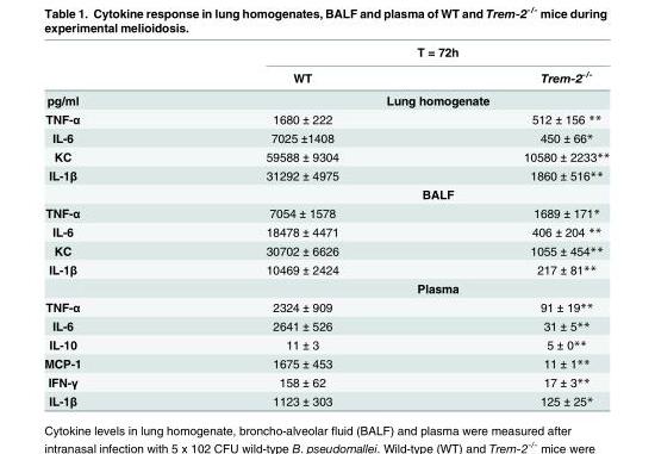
<table><thead><tr><td rowspan="2"></td><td colspan="2">T = 72h</td></tr><tr><td>WT</td><td>Trem-2<sup>-/-</sup></td></tr></thead><tbody><tr><td>pg/ml</td><td colspan="2">Lung homogenate</td></tr><tr><td>TNF-α</td><td>1680 ± 222</td><td>512 ± 156 **</td></tr><tr><td>IL-6</td><td>7025 ±1408</td><td>450 ± 66*</td></tr><tr><td>KC</td><td>59588 ± 9304</td><td>10580 ± 2233**</td></tr><tr><td rowspan="2">IL-1β</td><td>31292 ± 4975</td><td>1860 ± 516**</td></tr><tr><td colspan="2">BALF</td></tr><tr><td>TNF-α</td><td>7054 ± 1578</td><td>1689 ± 171*</td></tr><tr><td>IL-6</td><td>18478 ± 4471</td><td>406 ± 204 **</td></tr><tr><td>KC</td><td>30702 ± 6626</td><td>1055 ± 454**</td></tr><tr><td rowspan="2">IL-1β</td><td>10469 ± 2424</td><td>217 ± 81**</td></tr><tr><td colspan="2">Plasma</td></tr><tr><td>TNF-α</td><td>2324 ± 909</td><td>91 ± 19**</td></tr><tr><td>IL-6</td><td>2641 ± 526</td><td>31 ± 5**</td></tr><tr><td>IL-10</td><td>11 ± 3</td><td>5 ± 0**</td></tr><tr><td>MCP-1</td><td>1675 ± 453</td><td>11 ± 1**</td></tr><tr><td>IFN-γ</td><td>158 ± 62</td><td>17 ± 3**</td></tr><tr><td>IL-1β</td><td>1123 ± 303</td><td>125 ± 25*</td></tr></tbody></table>